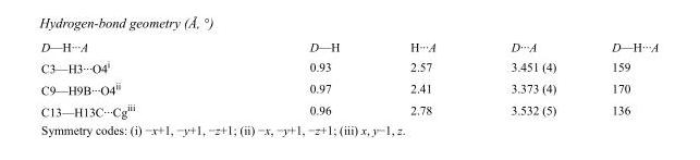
<table><tbody><tr><td>D—H···A</td><td>D—H</td><td>H···A</td><td>D···A</td><td>D—H···A</td></tr><tr><td>C3—H3···O4<sup>i</sup></td><td>0.93</td><td>2.57</td><td>3.451 (4)</td><td>159</td></tr><tr><td>C9—H9B···O4<sup>ii</sup></td><td>0.97</td><td>2.41</td><td>3.373 (4)</td><td>170</td></tr><tr><td>C13—H13C···Cg<sup>iii</sup></td><td>0.96</td><td>2.78</td><td>3.532 (5)</td><td>136</td></tr></tbody></table>